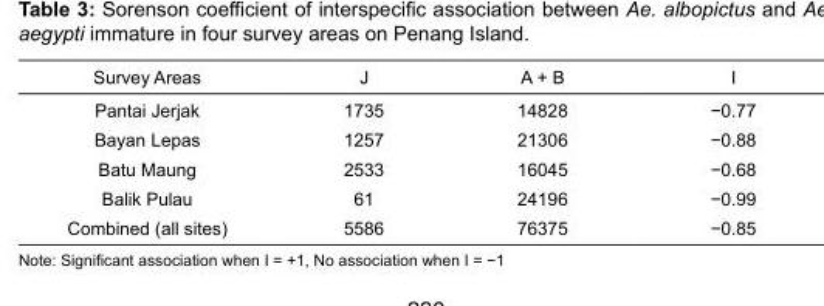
<table><thead><tr><td>Survey Areas</td><td>J</td><td>A + B</td><td>I</td></tr></thead><tbody><tr><td>Pantai Jerjak</td><td>1735</td><td>14828</td><td>−0.77</td></tr><tr><td>Bayan Lepas</td><td>1257</td><td>21306</td><td>−0.88</td></tr><tr><td>Batu Maung</td><td>2533</td><td>16045</td><td>−0.68</td></tr><tr><td>Balik Pulau</td><td>61</td><td>24196</td><td>−0.99</td></tr><tr><td>Combined (all sites)</td><td>5586</td><td>76375</td><td>−0.85</td></tr></tbody></table>